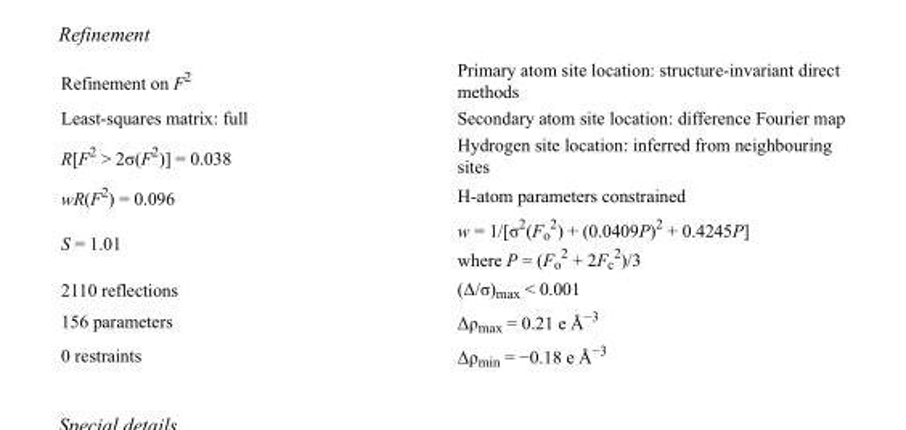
<table><tbody><tr><td>Refinement on F<sup>2</sup></td><td>Primary atom site location: structure-invariant direct methods</td></tr><tr><td>Least-squares matrix: full</td><td>Secondary atom site location: difference Fourier map</td></tr><tr><td>R[F<sup>2</sup> &gt; 2σ(F<sup>2</sup>)] = 0.038</td><td>Hydrogen site location: inferred from neighbouring sites</td></tr><tr><td>wR(F<sup>2</sup>) = 0.096</td><td>H-atom parameters constrained</td></tr><tr><td>S = 1.01</td><td>w = 1/[σ<sup>2</sup>(F<sub>o</sub> <sup>2</sup>) + (0.0409P)<sup>2</sup> + 0.4245P] where P = (F<sub>o</sub> <sup>2</sup> + 2F<sub>c</sub> <sup>2</sup>)/3</td></tr><tr><td>2110 reflections</td><td>(Δ/σ)<sub>max</sub> &lt; 0.001</td></tr><tr><td>156 parameters</td><td>Δρ<sub>max</sub> = 0.21 e Å<sup>−3</sup></td></tr><tr><td>0 restraints</td><td>Δρ<sub>min</sub> = −0.18 e Å<sup>−3</sup></td></tr></tbody></table>